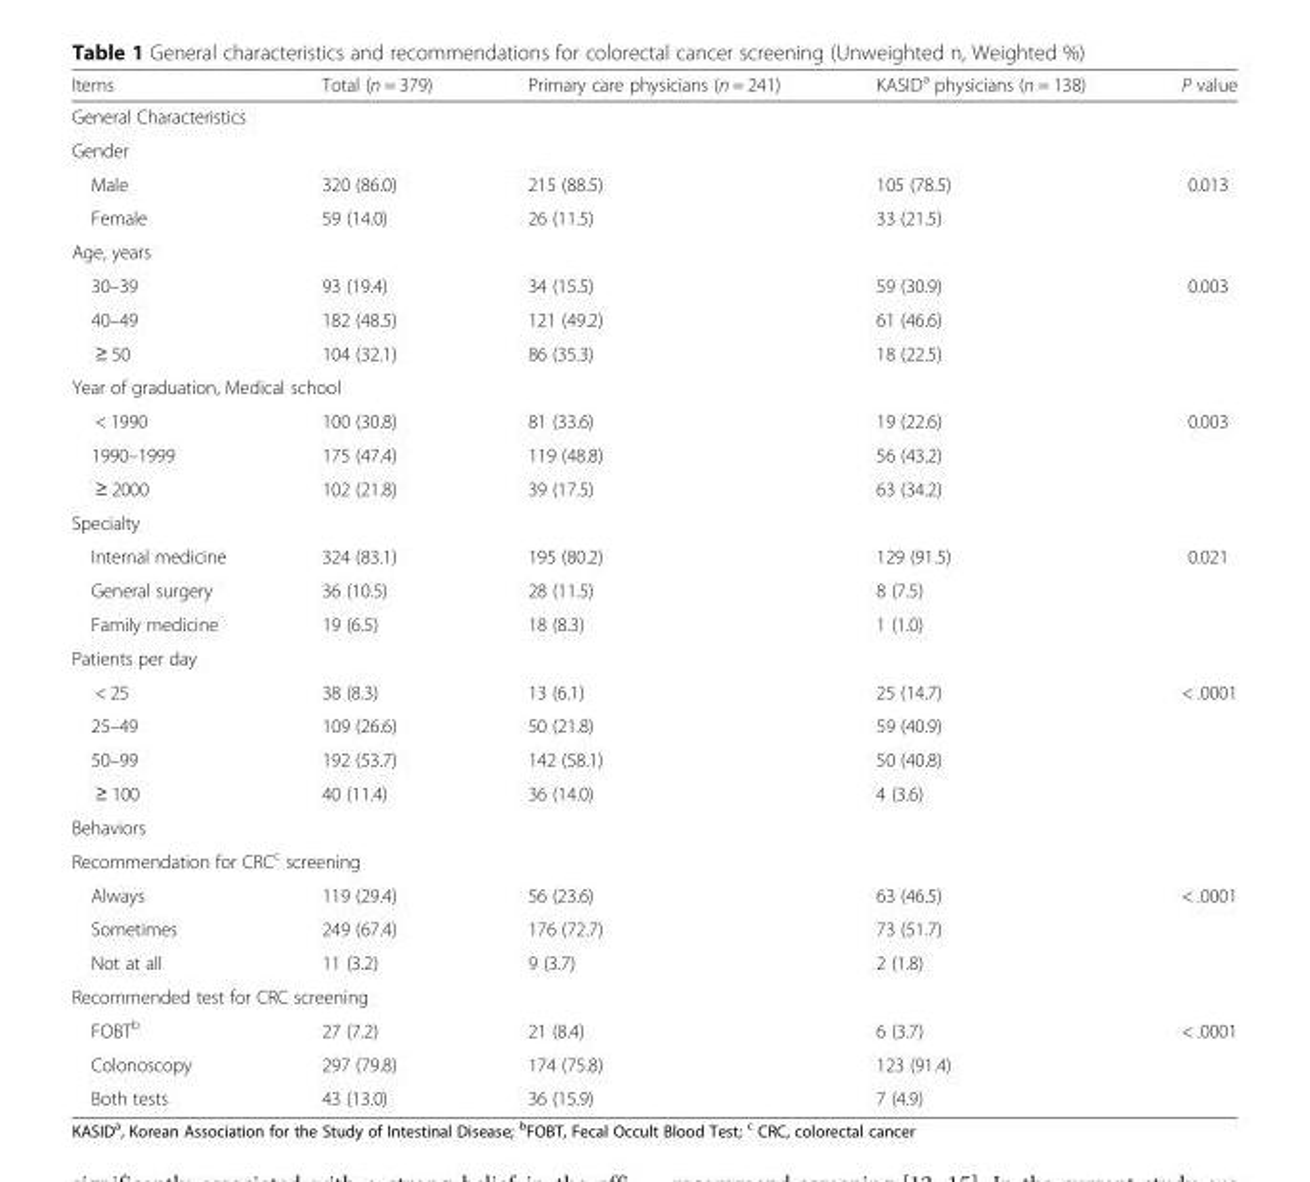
<table><thead><tr><td>Items</td><td>Total (n = 379)</td><td>Primary care physicians (n = 241)</td><td>KASID<sup>a</sup> physicians (n = 138)</td><td>P value</td></tr></thead><tbody><tr><td colspan="5">General Characteristics</td></tr><tr><td colspan="5">Gender</td></tr><tr><td>Male</td><td>320 (86.0)</td><td>215 (88.5)</td><td>105 (78.5)</td><td>0.013</td></tr><tr><td>Female</td><td>59 (14.0)</td><td>26 (11.5)</td><td>33 (21.5)</td><td></td></tr><tr><td colspan="5">Age, years</td></tr><tr><td>30–39</td><td>93 (19.4)</td><td>34 (15.5)</td><td>59 (30.9)</td><td>0.003</td></tr><tr><td>40–49</td><td>182 (48.5)</td><td>121 (49.2)</td><td>61 (46.6)</td><td></td></tr><tr><td>≥ 50</td><td>104 (32.1)</td><td>86 (35.3)</td><td>18 (22.5)</td><td></td></tr><tr><td colspan="5">Year of graduation, Medical school</td></tr><tr><td>&lt; 1990</td><td>100 (30.8)</td><td>81 (33.6)</td><td>19 (22.6)</td><td>0.003</td></tr><tr><td>1990–1999</td><td>175 (47.4)</td><td>119 (48.8)</td><td>56 (43.2)</td><td></td></tr><tr><td>≥ 2000</td><td>102 (21.8)</td><td>39 (17.5)</td><td>63 (34.2)</td><td></td></tr><tr><td colspan="5">Specialty</td></tr><tr><td>Internal medicine</td><td>324 (83.1)</td><td>195 (80.2)</td><td>129 (91.5)</td><td>0.021</td></tr><tr><td>General surgery</td><td>36 (10.5)</td><td>28 (11.5)</td><td>8 (7.5)</td><td></td></tr><tr><td>Family medicine</td><td>19 (6.5)</td><td>18 (8.3)</td><td>1 (1.0)</td><td></td></tr><tr><td colspan="5">Patients per day</td></tr><tr><td>&lt; 25</td><td>38 (8.3)</td><td>13 (6.1)</td><td>25 (14.7)</td><td>&lt; .0001</td></tr><tr><td>25–49</td><td>109 (26.6)</td><td>50 (21.8)</td><td>59 (40.9)</td><td></td></tr><tr><td>50–99</td><td>192 (53.7)</td><td>142 (58.1)</td><td>50 (40.8)</td><td></td></tr><tr><td>≥ 100</td><td>40 (11.4)</td><td>36 (14.0)</td><td>4 (3.6)</td><td></td></tr><tr><td colspan="5">Behaviors</td></tr><tr><td colspan="5">Recommendation for CRC<sup>c</sup> screening</td></tr><tr><td>Always</td><td>119 (29.4)</td><td>56 (23.6)</td><td>63 (46.5)</td><td>&lt; .0001</td></tr><tr><td>Sometimes</td><td>249 (67.4)</td><td>176 (72.7)</td><td>73 (51.7)</td><td></td></tr><tr><td>Not at all</td><td>11 (3.2)</td><td>9 (3.7)</td><td>2 (1.8)</td><td></td></tr><tr><td colspan="5">Recommended test for CRC screening</td></tr><tr><td>FOBT<sup>b</sup></td><td>27 (7.2)</td><td>21 (8.4)</td><td>6 (3.7)</td><td>&lt; .0001</td></tr><tr><td>Colonoscopy</td><td>297 (79.8)</td><td>174 (75.8)</td><td>123 (91.4)</td><td></td></tr><tr><td>Both tests</td><td>43 (13.0)</td><td>36 (15.9)</td><td>7 (4.9)</td><td></td></tr></tbody></table>